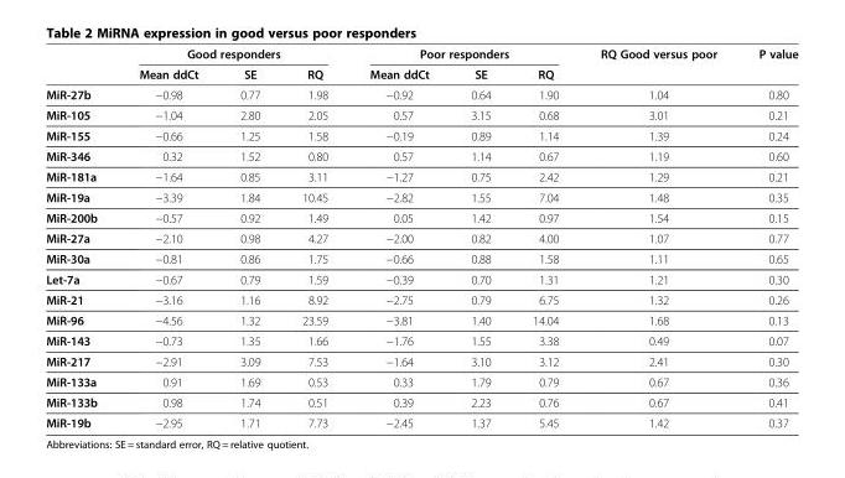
<table><thead><tr><td rowspan="2"></td><td colspan="3">Good responders</td><td colspan="3">Poor responders</td><td rowspan="2">RQ Good versus poor</td><td rowspan="2">P value</td></tr><tr><td>Mean ddCt</td><td>SE</td><td>RQ</td><td>Mean ddCt</td><td>SE</td><td>RQ</td></tr></thead><tbody><tr><td>MiR-27b</td><td>−0.98</td><td>0.77</td><td>1.98</td><td>−0.92</td><td>0.64</td><td>1.90</td><td>1.04</td><td>0.80</td></tr><tr><td>MiR-105</td><td>−1.04</td><td>2.80</td><td>2.05</td><td>0.57</td><td>3.15</td><td>0.68</td><td>3.01</td><td>0.21</td></tr><tr><td>MiR-155</td><td>−0.66</td><td>1.25</td><td>1.58</td><td>−0.19</td><td>0.89</td><td>1.14</td><td>1.39</td><td>0.24</td></tr><tr><td>MiR-346</td><td>0.32</td><td>1.52</td><td>0.80</td><td>0.57</td><td>1.14</td><td>0.67</td><td>1.19</td><td>0.60</td></tr><tr><td>MiR-181a</td><td>−1.64</td><td>0.85</td><td>3.11</td><td>−1.27</td><td>0.75</td><td>2.42</td><td>1.29</td><td>0.21</td></tr><tr><td>MiR-19a</td><td>−3.39</td><td>1.84</td><td>10.45</td><td>−2.82</td><td>1.55</td><td>7.04</td><td>1.48</td><td>0.35</td></tr><tr><td>MiR-200b</td><td>−0.57</td><td>0.92</td><td>1.49</td><td>0.05</td><td>1.42</td><td>0.97</td><td>1.54</td><td>0.15</td></tr><tr><td>MiR-27a</td><td>−2.10</td><td>0.98</td><td>4.27</td><td>−2.00</td><td>0.82</td><td>4.00</td><td>1.07</td><td>0.77</td></tr><tr><td>MiR-30a</td><td>−0.81</td><td>0.86</td><td>1.75</td><td>−0.66</td><td>0.88</td><td>1.58</td><td>1.11</td><td>0.65</td></tr><tr><td>Let-7a</td><td>−0.67</td><td>0.79</td><td>1.59</td><td>−0.39</td><td>0.70</td><td>1.31</td><td>1.21</td><td>0.30</td></tr><tr><td>MiR-21</td><td>−3.16</td><td>1.16</td><td>8.92</td><td>−2.75</td><td>0.79</td><td>6.75</td><td>1.32</td><td>0.26</td></tr><tr><td>MiR-96</td><td>−4.56</td><td>1.32</td><td>23.59</td><td>−3.81</td><td>1.40</td><td>14.04</td><td>1.68</td><td>0.13</td></tr><tr><td>MiR-143</td><td>−0.73</td><td>1.35</td><td>1.66</td><td>−1.76</td><td>1.55</td><td>3.38</td><td>0.49</td><td>0.07</td></tr><tr><td>MiR-217</td><td>−2.91</td><td>3.09</td><td>7.53</td><td>−1.64</td><td>3.10</td><td>3.12</td><td>2.41</td><td>0.30</td></tr><tr><td>MiR-133a</td><td>0.91</td><td>1.69</td><td>0.53</td><td>0.33</td><td>1.79</td><td>0.79</td><td>0.67</td><td>0.36</td></tr><tr><td>MiR-133b</td><td>0.98</td><td>1.74</td><td>0.51</td><td>0.39</td><td>2.23</td><td>0.76</td><td>0.67</td><td>0.41</td></tr><tr><td>MiR-19b</td><td>−2.95</td><td>1.71</td><td>7.73</td><td>−2.45</td><td>1.37</td><td>5.45</td><td>1.42</td><td>0.37</td></tr></tbody></table>